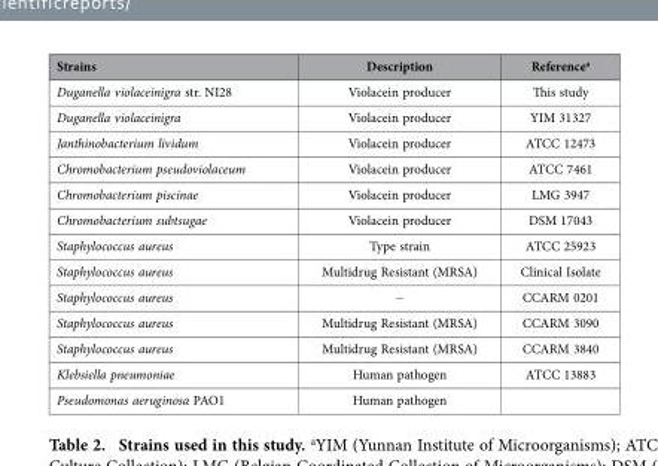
<table><thead><tr><td>Strains</td><td>Description</td><td>Reference<sup>a</sup></td></tr></thead><tbody><tr><td>Duganella violaceinigra str. NI28</td><td>Violacein producer</td><td>This study</td></tr><tr><td>Duganella violaceinigra</td><td>Violacein producer</td><td>YIM 31327</td></tr><tr><td>Janthinobacterium lividum</td><td>Violacein producer</td><td>ATCC 12473</td></tr><tr><td>Chromobacterium pseudoviolaceum</td><td>Violacein producer</td><td>ATCC 7461</td></tr><tr><td>Chromobacterium piscinae</td><td>Violacein producer</td><td>LMG 3947</td></tr><tr><td>Chromobacterium subtsugae</td><td>Violacein producer</td><td>DSM 17043</td></tr><tr><td>Staphylococcus aureus</td><td>Type strain</td><td>ATCC 25923</td></tr><tr><td>Staphylococcus aureus</td><td>Multidrug Resistant (MRSA)</td><td>Clinical Isolate</td></tr><tr><td>Staphylococcus aureus</td><td>−</td><td>CCARM 0201</td></tr><tr><td>Staphylococcus aureus</td><td>Multidrug Resistant (MRSA)</td><td>CCARM 3090</td></tr><tr><td>Staphylococcus aureus</td><td>Multidrug Resistant (MRSA)</td><td>CCARM 3840</td></tr><tr><td>Klebsiella pneumoniae</td><td>Human pathogen</td><td>ATCC 13883</td></tr><tr><td>Pseudomonas aeruginosa PAO1</td><td>Human pathogen</td><td></td></tr></tbody></table>